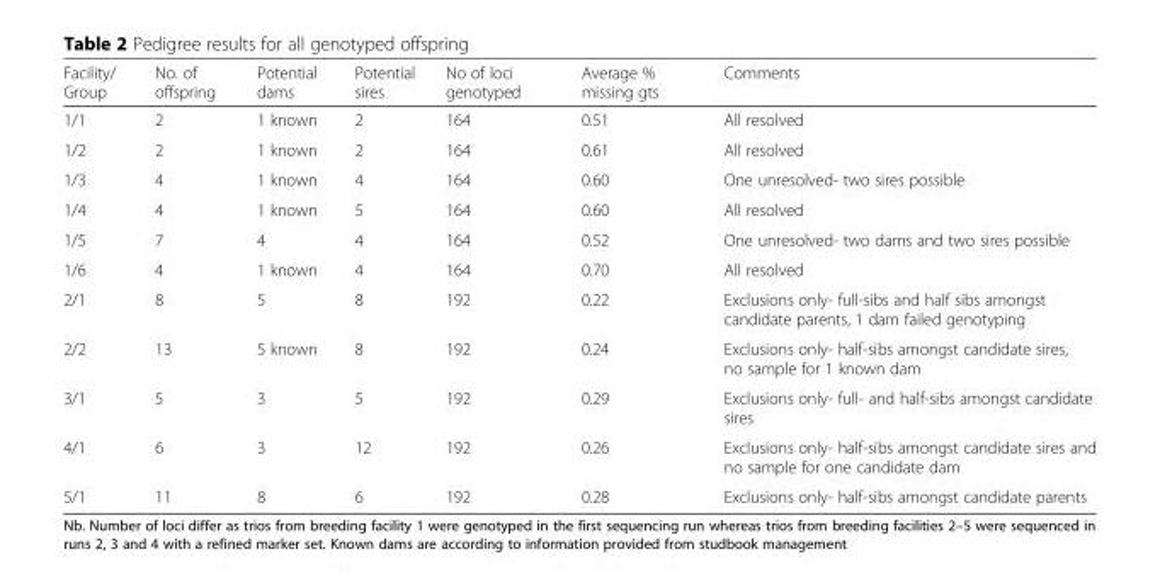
<table><thead><tr><td>Facility/ Group</td><td>No. of offspring</td><td>Potential dams</td><td>Potential sires</td><td>No of loci genotyped</td><td>Average % missing gts</td><td>Comments</td></tr></thead><tbody><tr><td>1/1</td><td>2</td><td>1 known</td><td>2</td><td>164</td><td>0.51</td><td>All resolved</td></tr><tr><td>1/2</td><td>2</td><td>1 known</td><td>2</td><td>164</td><td>0.61</td><td>All resolved</td></tr><tr><td>1/3</td><td>4</td><td>1 known</td><td>4</td><td>164</td><td>0.60</td><td>One unresolved- two sires possible</td></tr><tr><td>1/4</td><td>4</td><td>1 known</td><td>5</td><td>164</td><td>0.60</td><td>All resolved</td></tr><tr><td>1/5</td><td>7</td><td>4</td><td>4</td><td>164</td><td>0.52</td><td>One unresolved- two dams and two sires possible</td></tr><tr><td>1/6</td><td>4</td><td>1 known</td><td>4</td><td>164</td><td>0.70</td><td>All resolved</td></tr><tr><td>2/1</td><td>8</td><td>5</td><td>8</td><td>192</td><td>0.22</td><td>Exclusions only- full-sibs and half sibs amongst candidate parents, 1 dam failed genotyping</td></tr><tr><td>2/2</td><td>13</td><td>5 known</td><td>8</td><td>192</td><td>0.24</td><td>Exclusions only- half-sibs amongst candidate sires, no sample for 1 known dam</td></tr><tr><td>3/1</td><td>5</td><td>3</td><td>5</td><td>192</td><td>0.29</td><td>Exclusions only- full- and half-sibs amongst candidate sires</td></tr><tr><td>4/1</td><td>6</td><td>3</td><td>12</td><td>192</td><td>0.26</td><td>Exclusions only- half-sibs amongst candidate sires and no sample for one candidate dam</td></tr><tr><td>5/1</td><td>11</td><td>8</td><td>6</td><td>192</td><td>0.28</td><td>Exclusions only- half-sibs amongst candidate parents</td></tr></tbody></table>